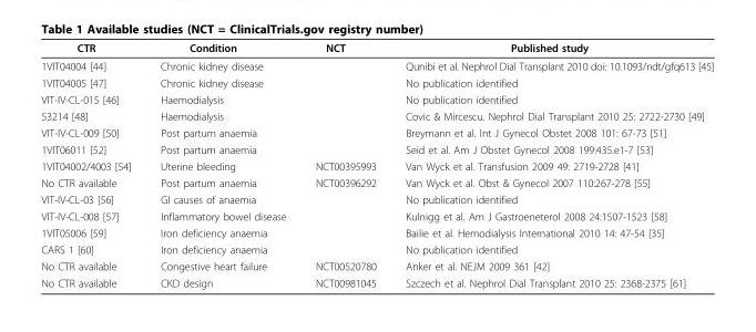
<table><thead><tr><td>CTR</td><td>Condition</td><td>NCT</td><td>Published study</td></tr></thead><tbody><tr><td>1VIT04004 [44]</td><td>Chronic kidney disease</td><td></td><td>Qunibi et al. Nephrol Dial Transplant 2010 doi: 10.1093/ndt/gfq613 [45]</td></tr><tr><td>1VIT04005 [47]</td><td>Chronic kidney disease</td><td></td><td>No publication identified</td></tr><tr><td>VIT-IV-CL-015 [46]</td><td>Haemodialysis</td><td></td><td>No publication identified</td></tr><tr><td>53214 [48]</td><td>Haemodialysis</td><td></td><td>Covic &amp; Mircescu. Nephrol Dial Transplant 2010 25: 2722-2730 [49]</td></tr><tr><td>VIT-IV-CL-009 [50]</td><td>Post partum anaemia</td><td></td><td>Breymann et al. Int J Gynecol Obstet 2008 101: 67-73 [51]</td></tr><tr><td>1VIT06011 [52]</td><td>Post partum anaemia</td><td></td><td>Seid et al. Am J Obstet Gynecol 2008 199:435.e1-7 [53]</td></tr><tr><td>1VIT04002/4003 [54]</td><td>Uterine bleeding</td><td>NCT00395993</td><td>Van Wyck et al. Transfusion 2009 49: 2719-2728 [41]</td></tr><tr><td>No CTR available</td><td>Post partum anaemia</td><td>NCT00396292</td><td>Van Wyck et al. Obst &amp; Gynecol 2007 110:267-278 [55]</td></tr><tr><td>VIT-IV-CL-03 [56]</td><td>GI causes of anaemia</td><td></td><td>No publication identified</td></tr><tr><td>VIT-IV-CL-008 [57]</td><td>Inflammatory bowel disease</td><td></td><td>Kulnigg et al. Am J Gastroeneterol 2008 24:1507-1523 [58]</td></tr><tr><td>1VIT05006 [59]</td><td>Iron deficiency anaemia</td><td></td><td>Bailie et al. Hemodialysis International 2010 14: 47-54 [35]</td></tr><tr><td>CARS 1 [60]</td><td>Iron deficiency anaemia</td><td></td><td>No publication identified</td></tr><tr><td>No CTR available</td><td>Congestive heart failure</td><td>NCT00520780</td><td>Anker et al. NEJM 2009 361 [42]</td></tr><tr><td>No CTR available</td><td>CKD design</td><td>NCT00981045</td><td>Szczech et al. Nephrol Dial Transplant 2010 25: 2368-2375 [61]</td></tr></tbody></table>